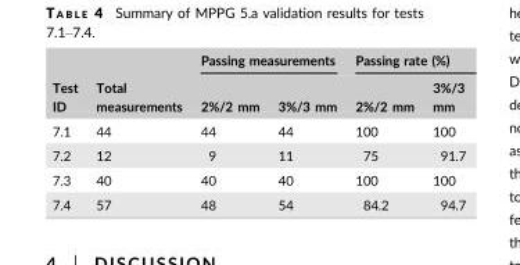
<table><thead><tr><td rowspan="2">Test ID</td><td rowspan="2">Total measurements</td><td colspan="2">Passing measurements</td><td colspan="2">Passing rate (%)</td></tr><tr><td>2%/2 mm</td><td>3%/3 mm</td><td>2%/2 mm</td><td>3%/3 mm</td></tr></thead><tbody><tr><td>7.1</td><td>44</td><td>44</td><td>44</td><td>100</td><td>100</td></tr><tr><td>7.2</td><td>12</td><td>9</td><td>11</td><td>75</td><td>91.7</td></tr><tr><td>7.3</td><td>40</td><td>40</td><td>40</td><td>100</td><td>100</td></tr><tr><td>7.4</td><td>57</td><td>48</td><td>54</td><td>84.2</td><td>94.7</td></tr></tbody></table>